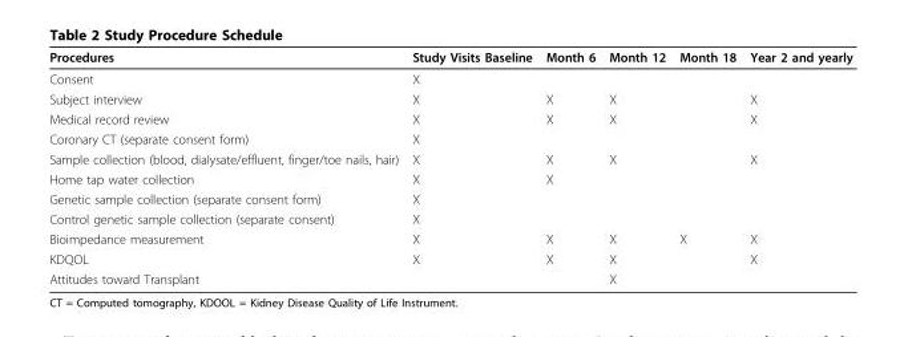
<table><thead><tr><td>Procedures</td><td>Study Visits Baseline</td><td>Month 6</td><td>Month 12</td><td>Month 18</td><td>Year 2 and yearly</td></tr></thead><tbody><tr><td>Consent</td><td>X</td><td></td><td></td><td></td><td></td></tr><tr><td>Subject interview</td><td>X</td><td>X</td><td>X</td><td></td><td>X</td></tr><tr><td>Medical record review</td><td>X</td><td>X</td><td>X</td><td></td><td>X</td></tr><tr><td>Coronary CT (separate consent form)</td><td>X</td><td></td><td></td><td></td><td></td></tr><tr><td>Sample collection (blood, dialysate/effluent, finger/toe nails, hair)</td><td>X</td><td>X</td><td>X</td><td></td><td>X</td></tr><tr><td>Home tap water collection</td><td>X</td><td>X</td><td></td><td></td><td></td></tr><tr><td>Genetic sample collection (separate consent form)</td><td>X</td><td></td><td></td><td></td><td></td></tr><tr><td>Control genetic sample collection (separate consent)</td><td>X</td><td></td><td></td><td></td><td></td></tr><tr><td>Bioimpedance measurement</td><td>X</td><td>X</td><td>X</td><td>X</td><td>X</td></tr><tr><td>KDQOL</td><td>X</td><td>X</td><td>X</td><td></td><td>X</td></tr><tr><td>Attitudes toward Transplant</td><td></td><td></td><td>X</td><td></td><td></td></tr></tbody></table>